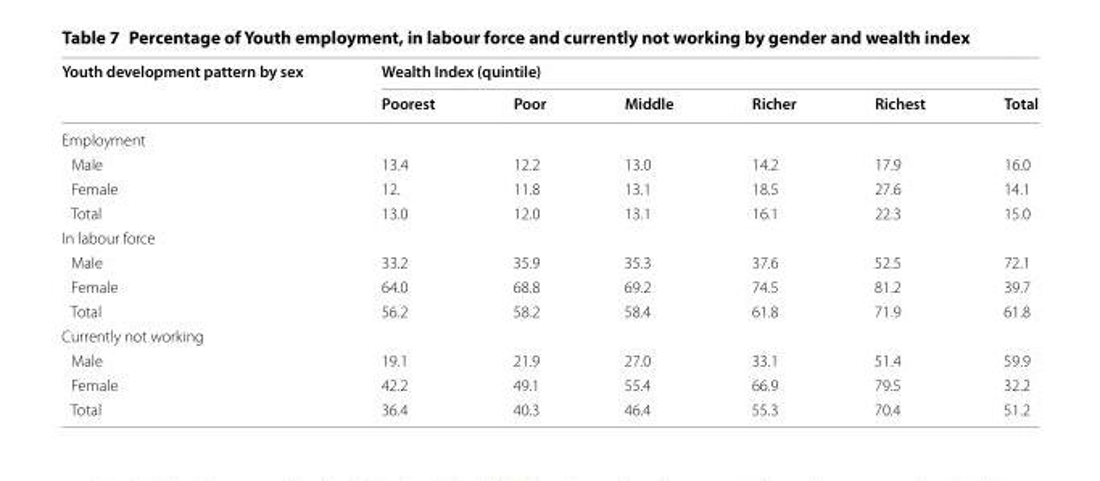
<table><thead><tr><td rowspan="2">Youth development pattern by sex</td><td colspan="6">Wealth Index (quintile)</td></tr><tr><td>Poorest</td><td>Poor</td><td>Middle</td><td>Richer</td><td>Richest</td><td>Total</td></tr></thead><tbody><tr><td colspan="7">Employment</td></tr><tr><td>Male</td><td>13.4</td><td>12.2</td><td>13.0</td><td>14.2</td><td>17.9</td><td>16.0</td></tr><tr><td>Female</td><td>12.</td><td>11.8</td><td>13.1</td><td>18.5</td><td>27.6</td><td>14.1</td></tr><tr><td>Total</td><td>13.0</td><td>12.0</td><td>13.1</td><td>16.1</td><td>22.3</td><td>15.0</td></tr><tr><td colspan="7">In labour force</td></tr><tr><td>Male</td><td>33.2</td><td>35.9</td><td>35.3</td><td>37.6</td><td>52.5</td><td>72.1</td></tr><tr><td>Female</td><td>64.0</td><td>68.8</td><td>69.2</td><td>74.5</td><td>81.2</td><td>39.7</td></tr><tr><td>Total</td><td>56.2</td><td>58.2</td><td>58.4</td><td>61.8</td><td>71.9</td><td>61.8</td></tr><tr><td colspan="7">Currently not working</td></tr><tr><td>Male</td><td>19.1</td><td>21.9</td><td>27.0</td><td>33.1</td><td>51.4</td><td>59.9</td></tr><tr><td>Female</td><td>42.2</td><td>49.1</td><td>55.4</td><td>66.9</td><td>79.5</td><td>32.2</td></tr><tr><td>Total</td><td>36.4</td><td>40.3</td><td>46.4</td><td>55.3</td><td>70.4</td><td>51.2</td></tr></tbody></table>